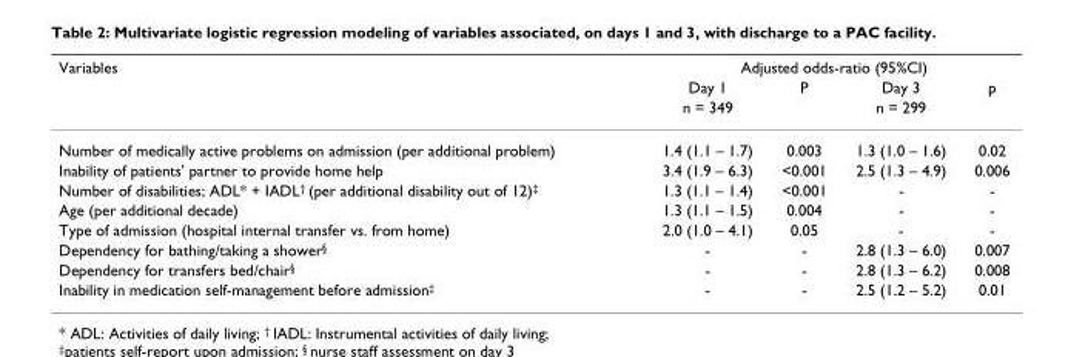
<table><thead><tr><td rowspan="3">Variables</td><td colspan="4">Adjusted odds-ratio (95%CI)</td></tr><tr><td rowspan="2">Day 1 n = 349</td><td rowspan="2">P</td><td rowspan="2">Day 3 n = 299</td><td rowspan="2">p</td></tr><tr></tr></thead><tbody><tr><td>Number of medically active problems on admission (per additional problem)</td><td>1.4 (1.1 – 1.7)</td><td>0.003</td><td>1.3 (1.0 – 1.6)</td><td>0.02</td></tr><tr><td>Inability of patients&#x27; partner to provide home help</td><td>3.4 (1.9 – 6.3)</td><td>&lt;0.001</td><td>2.5 (1.3 – 4.9)</td><td>0.006</td></tr><tr><td>Number of disabilities; ADL* + IADL<sup>†</sup> (per additional disability out of 12)<sup>‡</sup></td><td>1.3 (1.1 – 1.4)</td><td>&lt;0.001</td><td>-</td><td>-</td></tr><tr><td>Age (per additional decade)</td><td>1.3 (1.1 – 1.5)</td><td>0.004</td><td>-</td><td>-</td></tr><tr><td>Type of admission (hospital internal transfer vs. from home)</td><td>2.0 (1.0 – 4.1)</td><td>0.05</td><td>-</td><td>-</td></tr><tr><td>Dependency for bathing/taking a shower<sup>§</sup></td><td>-</td><td>-</td><td>2.8 (1.3 – 6.0)</td><td>0.007</td></tr><tr><td>Dependency for transfers bed/chair<sup>§</sup></td><td>-</td><td>-</td><td>2.8 (1.3 – 6.2)</td><td>0.008</td></tr><tr><td>Inability in medication self-management before admission<sup>‡</sup></td><td>-</td><td>-</td><td>2.5 (1.2 – 5.2)</td><td>0.01</td></tr></tbody></table>